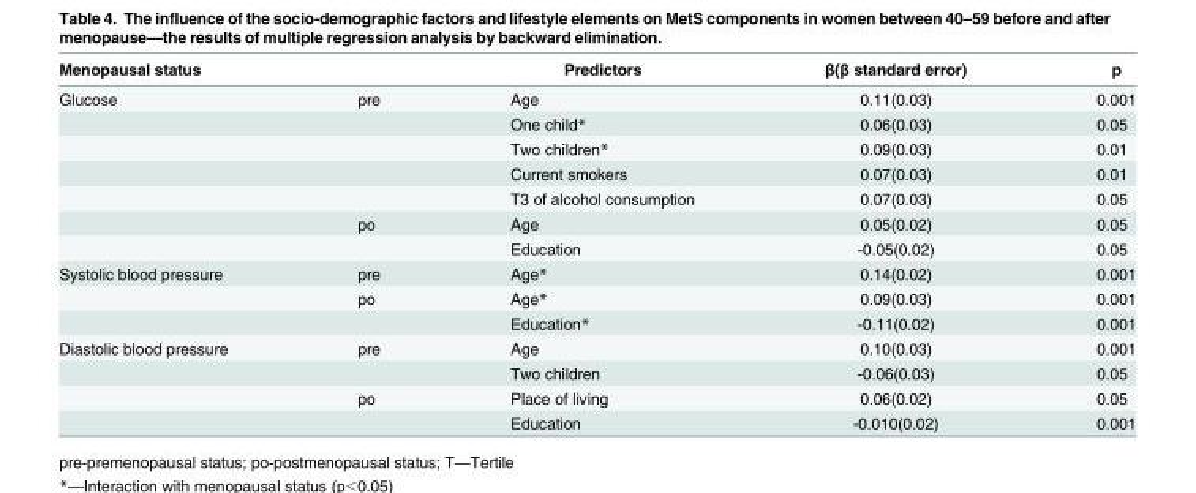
<table><thead><tr><td colspan="2">Menopausal status</td><td rowspan="2">Predictors Age</td><td rowspan="2">β(β standard error) 0.11(0.03)</td><td rowspan="2">p 0.001</td></tr><tr><td>Glucose</td><td>pre</td></tr></thead><tbody><tr><td></td><td></td><td>One child*</td><td>0.06(0.03)</td><td>0.05</td></tr><tr><td></td><td></td><td>Two children*</td><td>0.09(0.03)</td><td>0.01</td></tr><tr><td></td><td></td><td>Current smokers</td><td>0.07(0.03)</td><td>0.01</td></tr><tr><td></td><td></td><td>T3 of alcohol consumption</td><td>0.07(0.03)</td><td>0.05</td></tr><tr><td></td><td>po</td><td>Age</td><td>0.05(0.02)</td><td>0.05</td></tr><tr><td></td><td></td><td>Education</td><td>-0.05(0.02)</td><td>0.05</td></tr><tr><td rowspan="3">Systolic blood pressure</td><td>pre</td><td>Age*</td><td>0.14(0.02)</td><td>0.001</td></tr><tr><td>po</td><td>Age*</td><td>0.09(0.03)</td><td>0.001</td></tr><tr><td></td><td>Education*</td><td>-0.11(0.02)</td><td>0.001</td></tr><tr><td rowspan="4">Diastolic blood pressure</td><td>pre</td><td>Age</td><td>0.10(0.03)</td><td>0.001</td></tr><tr><td></td><td>Two children</td><td>-0.06(0.03)</td><td>0.05</td></tr><tr><td>po</td><td>Place of living</td><td>0.06(0.02)</td><td>0.05</td></tr><tr><td></td><td>Education</td><td>-0.010(0.02)</td><td>0.001</td></tr></tbody></table>